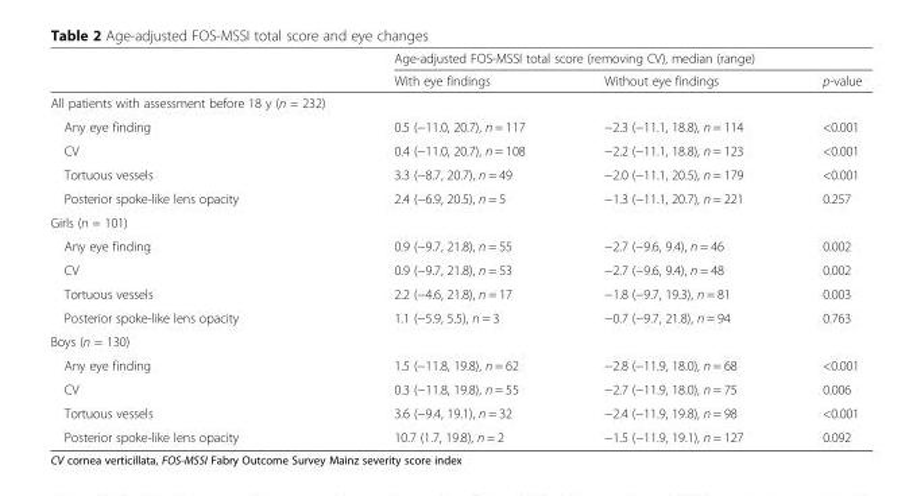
<table><thead><tr><td rowspan="2"></td><td colspan="3">Age-adjusted FOS-MSSI total score (removing CV), median (range)</td></tr><tr><td>With eye findings</td><td>Without eye findings</td><td>p-value</td></tr></thead><tbody><tr><td colspan="4">All patients with assessment before 18 y (n = 232)</td></tr><tr><td>Any eye finding</td><td>0.5 (−11.0, 20.7), n = 117</td><td>−2.3 (−11.1, 18.8), n = 114</td><td>&lt;0.001</td></tr><tr><td>CV</td><td>0.4 (−11.0, 20.7), n = 108</td><td>−2.2 (−11.1, 18.8), n = 123</td><td>&lt;0.001</td></tr><tr><td>Tortuous vessels</td><td>3.3 (−8.7, 20.7), n = 49</td><td>−2.0 (−11.1, 20.5), n = 179</td><td>&lt;0.001</td></tr><tr><td>Posterior spoke-like lens opacity</td><td>2.4 (−6.9, 20.5), n = 5</td><td>−1.3 (−11.1, 20.7), n = 221</td><td>0.257</td></tr><tr><td colspan="4">Girls (n = 101)</td></tr><tr><td>Any eye finding</td><td>0.9 (−9.7, 21.8), n = 55</td><td>−2.7 (−9.6, 9.4), n = 46</td><td>0.002</td></tr><tr><td>CV</td><td>0.9 (−9.7, 21.8), n = 53</td><td>−2.7 (−9.6, 9.4), n = 48</td><td>0.002</td></tr><tr><td>Tortuous vessels</td><td>2.2 (−4.6, 21.8), n = 17</td><td>−1.8 (−9.7, 19.3), n = 81</td><td>0.003</td></tr><tr><td>Posterior spoke-like lens opacity</td><td>1.1 (−5.9, 5.5), n = 3</td><td>−0.7 (−9.7, 21.8), n = 94</td><td>0.763</td></tr><tr><td colspan="4">Boys (n = 130)</td></tr><tr><td>Any eye finding</td><td>1.5 (−11.8, 19.8), n = 62</td><td>−2.8 (−11.9, 18.0), n = 68</td><td>&lt;0.001</td></tr><tr><td>CV</td><td>0.3 (−11.8, 19.8), n = 55</td><td>−2.7 (−11.9, 18.0), n = 75</td><td>0.006</td></tr><tr><td>Tortuous vessels</td><td>3.6 (−9.4, 19.1), n = 32</td><td>−2.4 (−11.9, 19.8), n = 98</td><td>&lt;0.001</td></tr><tr><td>Posterior spoke-like lens opacity</td><td>10.7 (1.7, 19.8), n = 2</td><td>−1.5 (−11.9, 19.1), n = 127</td><td>0.092</td></tr></tbody></table>